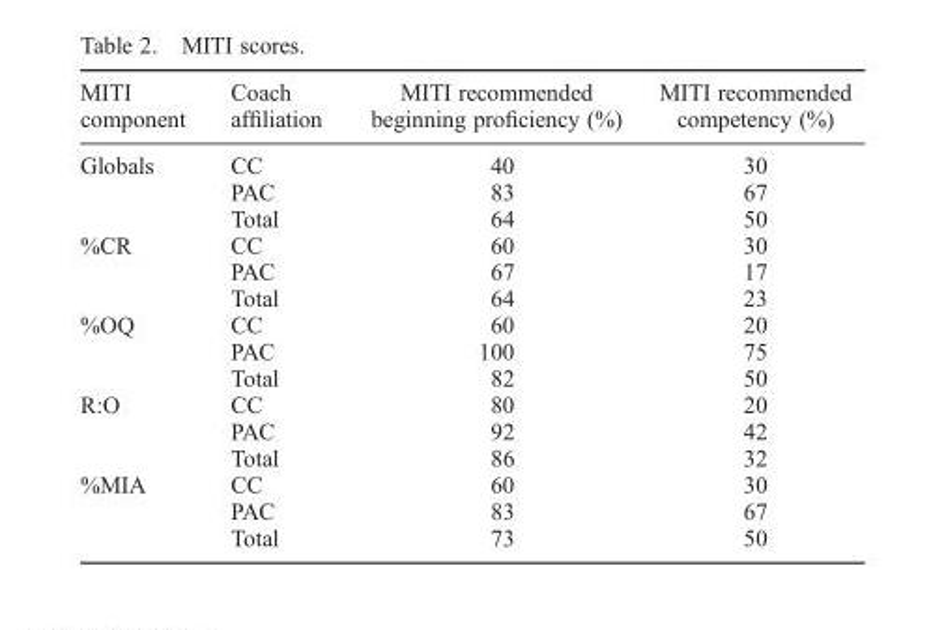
<table><thead><tr><td>MITI component</td><td>Coach affiliation</td><td>MITI recommended beginning proficiency (%)</td><td>MITI recommended competency (%)</td></tr></thead><tbody><tr><td rowspan="3">Globals</td><td>CC</td><td>40</td><td>30</td></tr><tr><td>PAC</td><td>83</td><td>67</td></tr><tr><td>Total</td><td>64</td><td>50</td></tr><tr><td rowspan="3">%CR</td><td>CC</td><td>60</td><td>30</td></tr><tr><td>PAC</td><td>67</td><td>17</td></tr><tr><td>Total</td><td>64</td><td>23</td></tr><tr><td rowspan="3">%OQ</td><td>CC</td><td>60</td><td>20</td></tr><tr><td>PAC</td><td>100</td><td>75</td></tr><tr><td>Total</td><td>82</td><td>50</td></tr><tr><td rowspan="3">R:O</td><td>CC</td><td>80</td><td>20</td></tr><tr><td>PAC</td><td>92</td><td>42</td></tr><tr><td>Total</td><td>86</td><td>32</td></tr><tr><td rowspan="3">%MIA</td><td>CC</td><td>60</td><td>30</td></tr><tr><td>PAC</td><td>83</td><td>67</td></tr><tr><td>Total</td><td>73</td><td>50</td></tr></tbody></table>